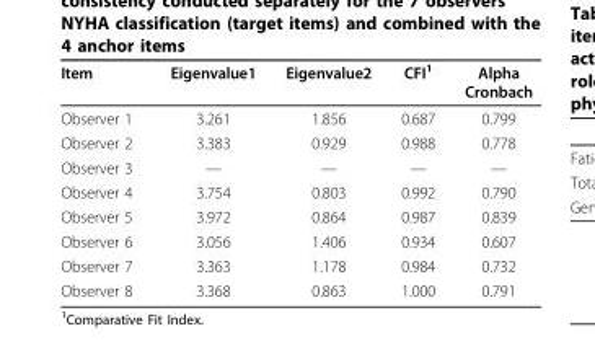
<table><thead><tr><td>Item</td><td>Eigenvalue1</td><td>Eigenvalue2</td><td>CFI<sup>1</sup></td><td>Alpha Cronbach</td></tr></thead><tbody><tr><td>Observer 1</td><td>3.261</td><td>1.856</td><td>0.687</td><td>0.799</td></tr><tr><td>Observer 2</td><td>3.383</td><td>0.929</td><td>0.988</td><td>0.778</td></tr><tr><td>Observer 3</td><td>—</td><td>—</td><td>—</td><td>—</td></tr><tr><td>Observer 4</td><td>3.754</td><td>0.803</td><td>0.992</td><td>0.790</td></tr><tr><td>Observer 5</td><td>3.972</td><td>0.864</td><td>0.987</td><td>0.839</td></tr><tr><td>Observer 6</td><td>3.056</td><td>1.406</td><td>0.934</td><td>0.607</td></tr><tr><td>Observer 7</td><td>3.363</td><td>1.178</td><td>0.984</td><td>0.732</td></tr><tr><td>Observer 8</td><td>3.368</td><td>0.863</td><td>1.000</td><td>0.791</td></tr></tbody></table>